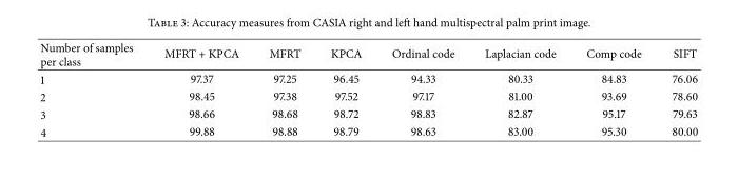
<table><thead><tr><td>Number of samples per class</td><td>MFRT + KPCA</td><td>MFRT</td><td>KPCA</td><td>Ordinal code</td><td>Laplacian code</td><td>Comp code</td><td>SIFT</td></tr></thead><tbody><tr><td>1</td><td>97.37</td><td>97.25</td><td>96.45</td><td>94.33</td><td>80.33</td><td>84.83</td><td>76.06</td></tr><tr><td>2</td><td>98.45</td><td>97.38</td><td>97.52</td><td>97.17</td><td>81.00</td><td>93.69</td><td>78.60</td></tr><tr><td>3</td><td>98.66</td><td>98.68</td><td>98.72</td><td>98.83</td><td>82.87</td><td>95.17</td><td>79.63</td></tr><tr><td>4</td><td>99.88</td><td>98.88</td><td>98.79</td><td>98.63</td><td>83.00</td><td>95.30</td><td>80.00</td></tr></tbody></table>